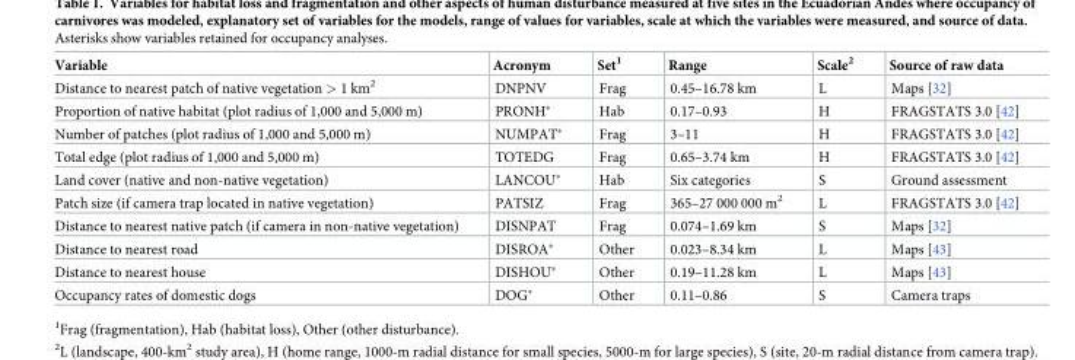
<table><thead><tr><td>Variable</td><td>Acronym</td><td>Set<sup>1</sup></td><td>Range</td><td>Scale<sup>2</sup></td><td>Source of raw data</td></tr></thead><tbody><tr><td>Distance to nearest patch of native vegetation &gt; 1 km<sup>2</sup></td><td>DNPNV</td><td>Frag</td><td>0.45–16.78 km</td><td>L</td><td>Maps [32]</td></tr><tr><td>Proportion of native habitat (plot radius of 1,000 and 5,000 m)</td><td>PRONH*</td><td>Hab</td><td>0.17–0.93</td><td>H</td><td>FRAGSTATS 3.0 [42]</td></tr><tr><td>Number of patches (plot radius of 1,000 and 5,000 m)</td><td>NUMPAT*</td><td>Frag</td><td>3–11</td><td>H</td><td>FRAGSTATS 3.0 [42]</td></tr><tr><td>Total edge (plot radius of 1,000 and 5,000 m)</td><td>TOTEDG</td><td>Frag</td><td>0.65–3.74 km</td><td>H</td><td>FRAGSTATS 3.0 [42]</td></tr><tr><td>Land cover (native and non-native vegetation)</td><td>LANCOU*</td><td>Hab</td><td>Six categories</td><td>S</td><td>Ground assessment</td></tr><tr><td>Patch size (if camera trap located in native vegetation)</td><td>PATSIZ</td><td>Frag</td><td>365–27 000 000 m<sup>2</sup></td><td>L</td><td>FRAGSTATS 3.0 [42]</td></tr><tr><td>Distance to nearest native patch (if camera in non-native vegetation)</td><td>DISNPAT</td><td>Frag</td><td>0.074–1.69 km</td><td>S</td><td>Maps [32]</td></tr><tr><td>Distance to nearest road</td><td>DISROA*</td><td>Other</td><td>0.023–8.34 km</td><td>L</td><td>Maps [43]</td></tr><tr><td>Distance to nearest house</td><td>DISHOU*</td><td>Other</td><td>0.19–11.28 km</td><td>L</td><td>Maps [43]</td></tr><tr><td>Occupancy rates of domestic dogs</td><td>DOG*</td><td>Other</td><td>0.11–0.86</td><td>S</td><td>Camera traps</td></tr></tbody></table>